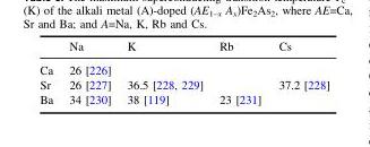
<table><thead><tr><td></td><td>Na</td><td>K</td><td>Rb</td><td>Cs</td></tr></thead><tbody><tr><td>Ca</td><td>26 [226]</td><td></td><td></td><td></td></tr><tr><td>Sr</td><td>26 [227]</td><td>36.5 [228, 229]</td><td></td><td>37.2 [228]</td></tr><tr><td>Ba</td><td>34 [230]</td><td>38 [119]</td><td>23 [231]</td><td></td></tr></tbody></table>